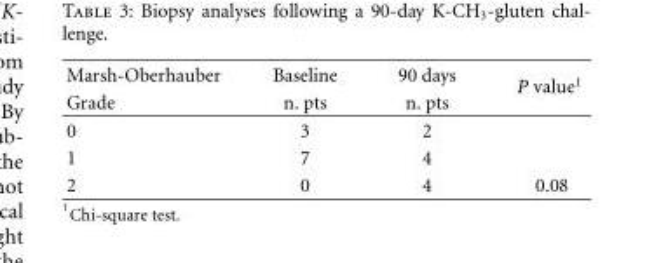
<table><thead><tr><td rowspan="2">Marsh-Oberhauber Grade</td><td rowspan="2">Baseline n. pts</td><td rowspan="2">90 days n. pts</td><td rowspan="2">P value<sup>1</sup></td></tr><tr></tr></thead><tbody><tr><td>0</td><td>3</td><td>2</td><td></td></tr><tr><td>1</td><td>7</td><td>4</td><td></td></tr><tr><td>2</td><td>0</td><td>4</td><td>0.08</td></tr></tbody></table>